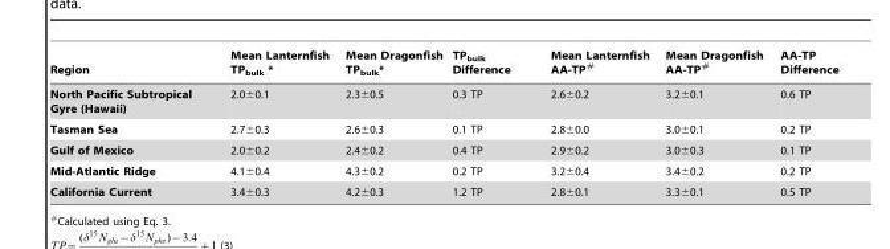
<table><thead><tr><td>Region</td><td>Mean Lanternfish TP<sub>bulk</sub> *</td><td>Mean Dragonfish TP<sub>bulk</sub>*</td><td>TP<sub>bulk</sub> Difference</td><td>Mean Lanternfish AA-TP#</td><td>Mean Dragonfish AA-TP#</td><td>AA-TP Difference</td></tr></thead><tbody><tr><td>North Pacific Subtropical Gyre (Hawaii)</td><td>2.0±0.1</td><td>2.3±0.5</td><td>0.3 TP</td><td>2.6±0.2</td><td>3.2±0.1</td><td>0.6 TP</td></tr><tr><td>Tasman Sea</td><td>2.7±0.3</td><td>2.6±0.3</td><td>0.1 TP</td><td>2.8±0.0</td><td>3.0±0.1</td><td>0.2 TP</td></tr><tr><td>Gulf of Mexico</td><td>2.0±0.2</td><td>2.4±0.2</td><td>0.4 TP</td><td>2.9±0.2</td><td>3.0±0.3</td><td>0.1 TP</td></tr><tr><td>Mid-Atlantic Ridge</td><td>4.1±0.4</td><td>4.3±0.2</td><td>0.2 TP</td><td>3.2±0.4</td><td>3.4±0.2</td><td>0.2 TP</td></tr><tr><td>California Current</td><td>3.4±0.3</td><td>4.2±0.3</td><td>1.2 TP</td><td>2.8±0.1</td><td>3.3±0.1</td><td>0.5 TP</td></tr></tbody></table>